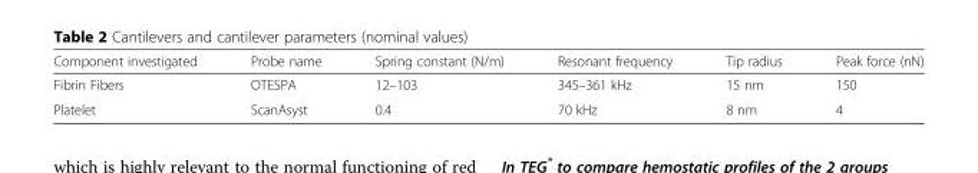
<table><thead><tr><td>Component investigated</td><td>Probe name</td><td>Spring constant (N/m)</td><td>Resonant frequency</td><td>Tip radius</td><td>Peak force (nN)</td></tr></thead><tbody><tr><td>Fibrin Fibers</td><td>OTESPA</td><td>12–103</td><td>345–361 kHz</td><td>15 nm</td><td>150</td></tr><tr><td>Platelet</td><td>ScanAsyst</td><td>0.4</td><td>70 kHz</td><td>8 nm</td><td>4</td></tr></tbody></table>